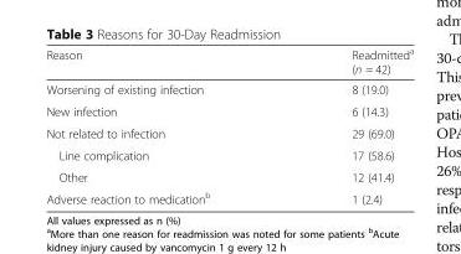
<table><thead><tr><td>Reason</td><td>Readmitted<sup>a</sup> (n = 42)</td></tr></thead><tbody><tr><td>Worsening of existing infection</td><td>8 (19.0)</td></tr><tr><td>New infection</td><td>6 (14.3)</td></tr><tr><td>Not related to infection</td><td>29 (69.0)</td></tr><tr><td>Line complication</td><td>17 (58.6)</td></tr><tr><td>Other</td><td>12 (41.4)</td></tr><tr><td>Adverse reaction to medication<sup>b</sup></td><td>1 (2.4)</td></tr></tbody></table>